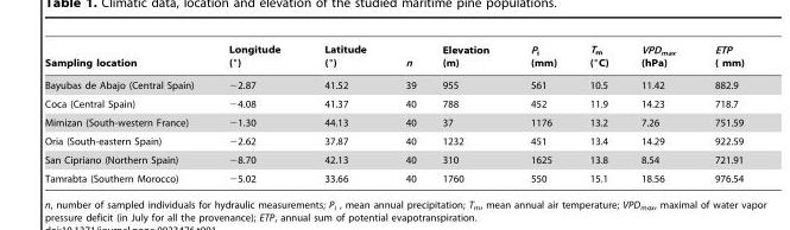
<table><thead><tr><td>Sampling location</td><td>Longitude (°)</td><td>Latitude (°)</td><td>n</td><td>Elevation (m)</td><td>P<sub>i</sub> (mm)</td><td>T<sub>m</sub> (°C)</td><td>VPD<sub>max</sub> (hPa)</td><td>ETP ( mm)</td></tr></thead><tbody><tr><td>Bayubas de Abajo (Central Spain)</td><td>−2.87</td><td>41.52</td><td>39</td><td>955</td><td>561</td><td>10.5</td><td>11.42</td><td>882.9</td></tr><tr><td>Coca (Central Spain)</td><td>−4.08</td><td>41.37</td><td>40</td><td>788</td><td>452</td><td>11.9</td><td>14.23</td><td>718.7</td></tr><tr><td>Mimizan (South-western France)</td><td>−1.30</td><td>44.13</td><td>40</td><td>37</td><td>1176</td><td>13.2</td><td>7.26</td><td>751.59</td></tr><tr><td>Oria (South-eastern Spain)</td><td>−2.62</td><td>37.87</td><td>40</td><td>1232</td><td>451</td><td>13.4</td><td>14.29</td><td>922.59</td></tr><tr><td>San Cipriano (Northern Spain)</td><td>−8.70</td><td>42.13</td><td>40</td><td>310</td><td>1625</td><td>13.8</td><td>8.54</td><td>721.91</td></tr><tr><td>Tamrabta (Southern Morocco)</td><td>−5.02</td><td>33.66</td><td>40</td><td>1760</td><td>550</td><td>15.1</td><td>18.56</td><td>976.54</td></tr></tbody></table>